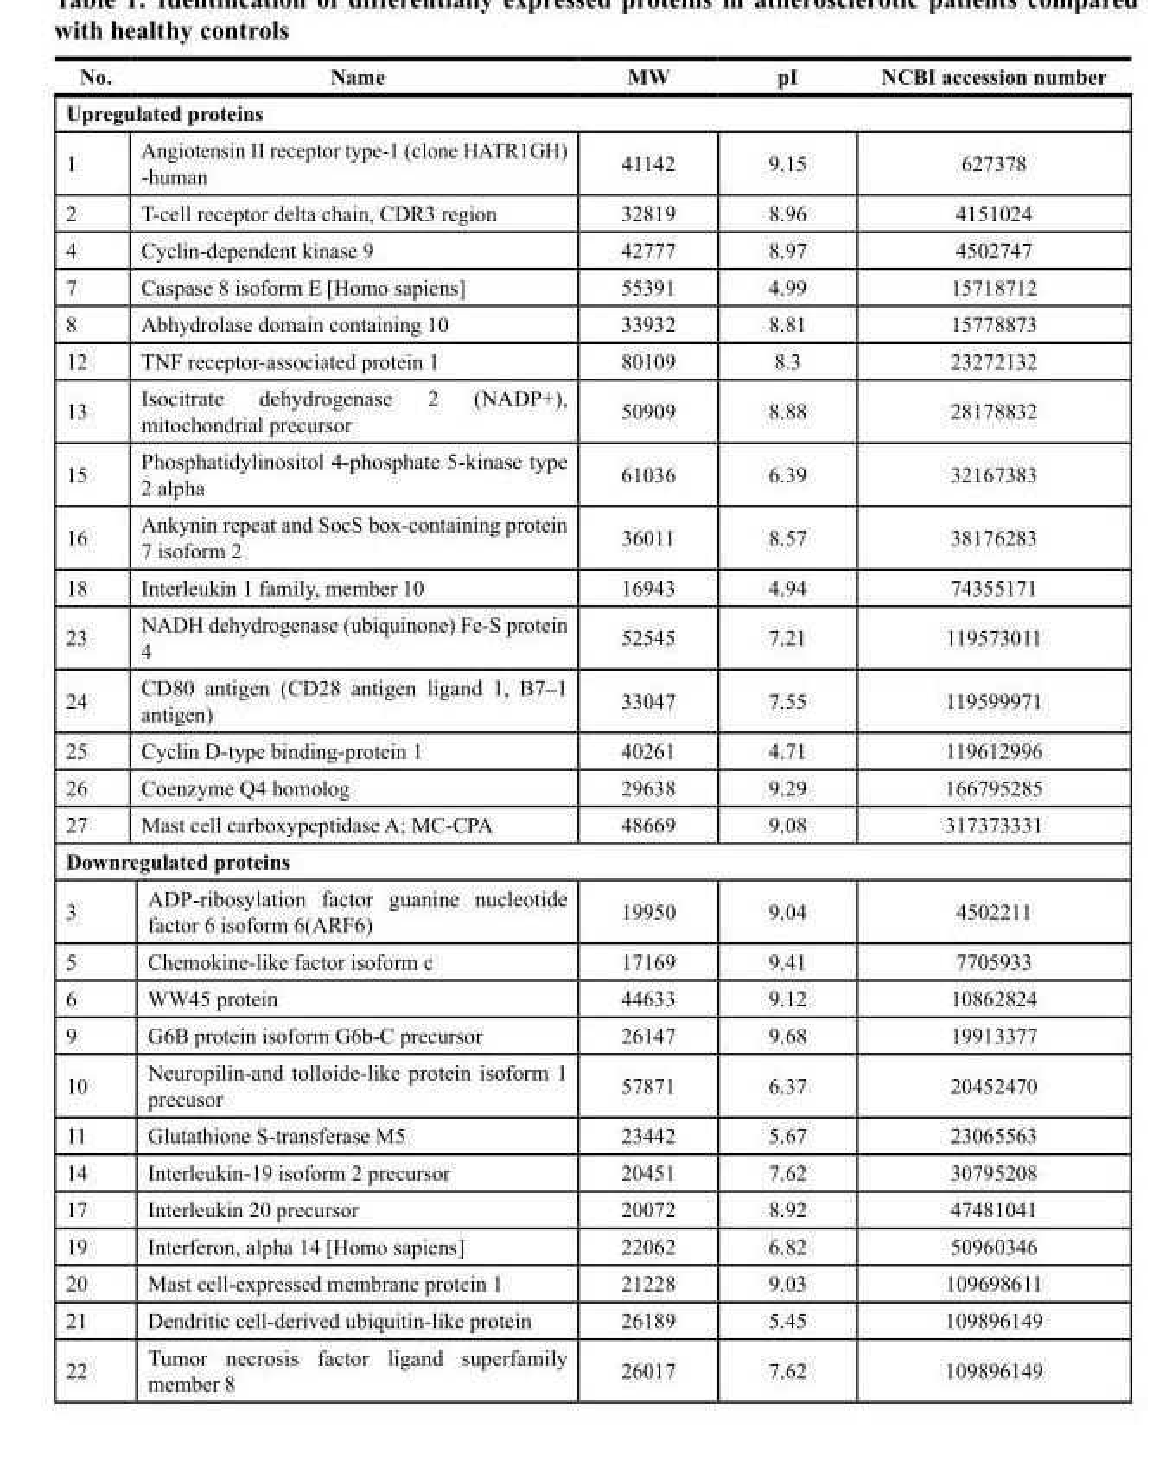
<table><thead><tr><td>No.</td><td>Name</td><td>MW</td><td>pI</td><td>NcbI accession number</td></tr></thead><tbody><tr><td colspan="5">Upregulated proteins</td></tr><tr><td>1</td><td>Angiotensin II receptor type-1 (clone HATR1GH) -human</td><td>41142</td><td>9.15</td><td>627378</td></tr><tr><td>2</td><td>T-cell receptor delta chain, CDR3 region</td><td>32819</td><td>8.96</td><td>4151024</td></tr><tr><td>4</td><td>Cyclin-dependent kinase 9</td><td>42777</td><td>8.97</td><td>4502747</td></tr><tr><td>7</td><td>Caspase 8 isoform E [Homo sapiens]</td><td>55391</td><td>4.99</td><td>15718712</td></tr><tr><td>8</td><td>Abhydrolase domain containing 10</td><td>33932</td><td>8.81</td><td>15778873</td></tr><tr><td>12</td><td>TNF receptor-associated protein 1</td><td>80109</td><td>8.3</td><td>23272132</td></tr><tr><td>13</td><td>Isocitrate dehydrogenase 2 (NADP+), mitochondrial precursor</td><td>50909</td><td>8.88</td><td>28178832</td></tr><tr><td>15</td><td>Phosphatidylinositol 4-phosphate 5-kinase type 2 alpha</td><td>61036</td><td>6.39</td><td>32167383</td></tr><tr><td>16</td><td>Ankynin repeat and SocS box-containing protein 7 isoform 2</td><td>36011</td><td>8.57</td><td>38176283</td></tr><tr><td>18</td><td>Interleukin 1 family, member 10</td><td>16943</td><td>4.94</td><td>74355171</td></tr><tr><td>23</td><td>NADH dehydrogenase (ubiquinone) Fe-S protein 4</td><td>52545</td><td>7.21</td><td>119573011</td></tr><tr><td>24</td><td>CD80 antigen (CD28 antigen ligand 1, B7–1 antigen)</td><td>33047</td><td>7.55</td><td>119599971</td></tr><tr><td>25</td><td>Cyclin D-type binding-protein 1</td><td>40261</td><td>4.71</td><td>119612996</td></tr><tr><td>26</td><td>Coenzyme Q4 homolog</td><td>29638</td><td>9.29</td><td>166795285</td></tr><tr><td>27</td><td>Mast cell carboxypeptidase A; MC-CPA</td><td>48669</td><td>9.08</td><td>317373331</td></tr><tr><td colspan="5">Downregulated proteins</td></tr><tr><td>3</td><td>ADP-ribosylation factor guanine nucleotide factor 6 isoform 6(ARF6)</td><td>19950</td><td>9.04</td><td>4502211</td></tr><tr><td>5</td><td>Chemokine-like factor isoform c</td><td>17169</td><td>9.41</td><td>7705933</td></tr><tr><td>6</td><td>WW45 protein</td><td>44633</td><td>9.12</td><td>10862824</td></tr><tr><td>9</td><td>G6B protein isoform G6b-C precursor</td><td>26147</td><td>9.68</td><td>19913377</td></tr><tr><td>10</td><td>Neuropilin-and tolloide-like protein isoform 1 precusor</td><td>57871</td><td>6.37</td><td>20452470</td></tr><tr><td>11</td><td>Glutathione S-transferase M5</td><td>23442</td><td>5.67</td><td>23065563</td></tr><tr><td>14</td><td>Interleukin-19 isoform 2 precursor</td><td>20451</td><td>7.62</td><td>30795208</td></tr><tr><td>17</td><td>Interleukin 20 precursor</td><td>20072</td><td>8.92</td><td>47481041</td></tr><tr><td>19</td><td>Interferon, alpha 14 [Homo sapiens]</td><td>22062</td><td>6.82</td><td>50960346</td></tr><tr><td>20</td><td>Mast cell-expressed membrane protein 1</td><td>21228</td><td>9.03</td><td>109698611</td></tr><tr><td>21</td><td>Dendritic cell-derived ubiquitin-like protein</td><td>26189</td><td>5.45</td><td>109896149</td></tr><tr><td>22</td><td>Tumor necrosis factor ligand superfamily member 8</td><td>26017</td><td>7.62</td><td>109896149</td></tr></tbody></table>